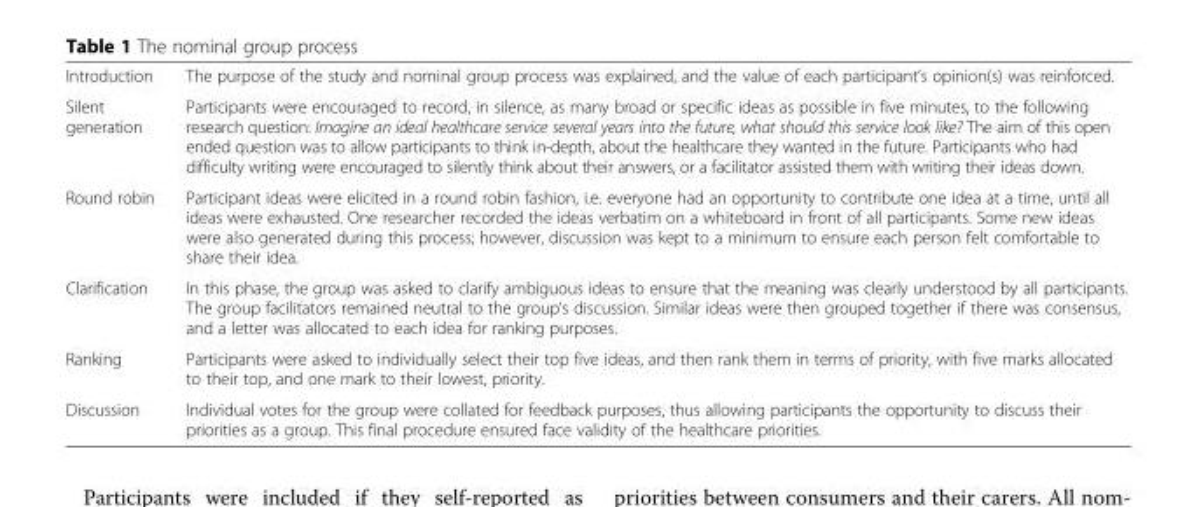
<table><tbody><tr><td>Introduction</td><td>The purpose of the study and nominal group process was explained, and the value of each participant’s opinion(s) was reinforced.</td></tr><tr><td>Silent generation</td><td>Participants were encouraged to record, in silence, as many broad or specific ideas as possible in five minutes, to the following research question: Imagine an ideal healthcare service several years into the future, what should this service look like? The aim of this open ended question was to allow participants to think in-depth, about the healthcare they wanted in the future. Participants who had difficulty writing were encouraged to silently think about their answers, or a facilitator assisted them with writing their ideas down.</td></tr><tr><td>Round robin</td><td>Participant ideas were elicited in a round robin fashion, i.e. everyone had an opportunity to contribute one idea at a time, until all ideas were exhausted. One researcher recorded the ideas verbatim on a whiteboard in front of all participants. Some new ideas were also generated during this process; however, discussion was kept to a minimum to ensure each person felt comfortable to share their idea.</td></tr><tr><td>Clarification</td><td>In this phase, the group was asked to clarify ambiguous ideas to ensure that the meaning was clearly understood by all participants. The group facilitators remained neutral to the group’s discussion. Similar ideas were then grouped together if there was consensus, and a letter was allocated to each idea for ranking purposes.</td></tr><tr><td>Ranking</td><td>Participants were asked to individually select their top five ideas, and then rank them in terms of priority, with five marks allocated to their top, and one mark to their lowest, priority.</td></tr><tr><td>Discussion</td><td>Individual votes for the group were collated for feedback purposes, thus allowing participants the opportunity to discuss their priorities as a group. This final procedure ensured face validity of the healthcare priorities.</td></tr></tbody></table>